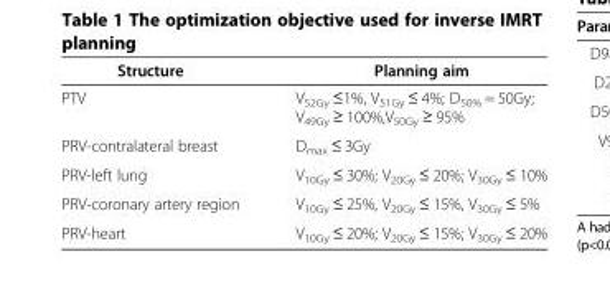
<table><thead><tr><td>Structure</td><td>Planning aim</td></tr></thead><tbody><tr><td>PTV</td><td>V<sub>52Gy</sub> ≤1%, V<sub>51Gy</sub> ≤ 4%; D<sub>50%</sub> = 50Gy; V<sub>49Gy</sub> ≥ 100%,V<sub>50Gy</sub> ≥ 95%</td></tr><tr><td>PRV-contralateral breast</td><td>D<sub>max</sub> ≤ 3Gy</td></tr><tr><td>PRV-left lung</td><td>V<sub>10Gy</sub> ≤ 30%; V<sub>20Gy</sub> ≤ 20%; V<sub>30Gy</sub> ≤ 10%</td></tr><tr><td>PRV-coronary artery region</td><td>V<sub>10Gy</sub> ≤ 25%, V<sub>20Gy</sub> ≤ 15%, V<sub>30Gy</sub> ≤ 5%</td></tr><tr><td>PRV-heart</td><td>V<sub>10Gy</sub> ≤ 20%; V<sub>20Gy</sub> ≤ 15%; V<sub>30Gy</sub> ≤ 20%</td></tr></tbody></table>